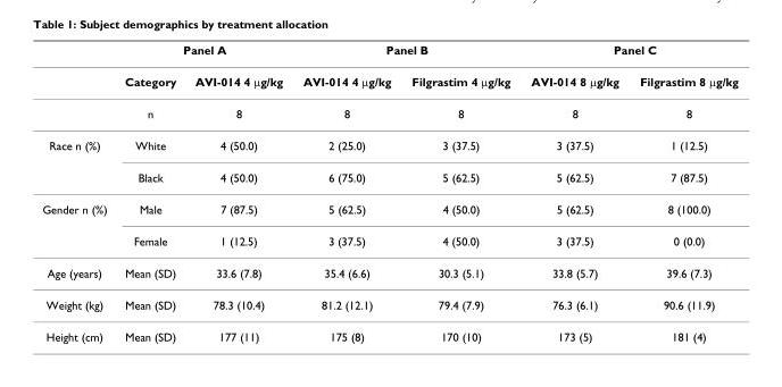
<table><thead><tr><td rowspan="2"></td><td colspan="2">Panel A</td><td colspan="2">Panel B</td><td colspan="2">Panel C</td></tr><tr><td>Category</td><td>AVI-014 4 μg/kg</td><td>AVI-014 4 μg/kg</td><td>Filgrastim 4 μg/kg</td><td>AVI-014 8 μg/kg</td><td>Filgrastim 8 μg/kg</td></tr></thead><tbody><tr><td></td><td>n</td><td>8</td><td>8</td><td>8</td><td>8</td><td>8</td></tr><tr><td rowspan="2">Race n (%)</td><td>White</td><td>4 (50.0)</td><td>2 (25.0)</td><td>3 (37.5)</td><td>3 (37.5)</td><td>1 (12.5)</td></tr><tr><td>Black</td><td>4 (50.0)</td><td>6 (75.0)</td><td>5 (62.5)</td><td>5 (62.5)</td><td>7 (87.5)</td></tr><tr><td rowspan="2">Gender n (%)</td><td>Male</td><td>7 (87.5)</td><td>5 (62.5)</td><td>4 (50.0)</td><td>5 (62.5)</td><td>8 (100.0)</td></tr><tr><td>Female</td><td>1 (12.5)</td><td>3 (37.5)</td><td>4 (50.0)</td><td>3 (37.5)</td><td>0 (0.0)</td></tr><tr><td>Age (years)</td><td>Mean (SD)</td><td>33.6 (7.8)</td><td>35.4 (6.6)</td><td>30.3 (5.1)</td><td>33.8 (5.7)</td><td>39.6 (7.3)</td></tr><tr><td>Weight (kg)</td><td>Mean (SD)</td><td>78.3 (10.4)</td><td>81.2 (12.1)</td><td>79.4 (7.9)</td><td>76.3 (6.1)</td><td>90.6 (11.9)</td></tr><tr><td>Height (cm)</td><td>Mean (SD)</td><td>177 (11)</td><td>175 (8)</td><td>170 (10)</td><td>173 (5)</td><td>181 (4)</td></tr></tbody></table>